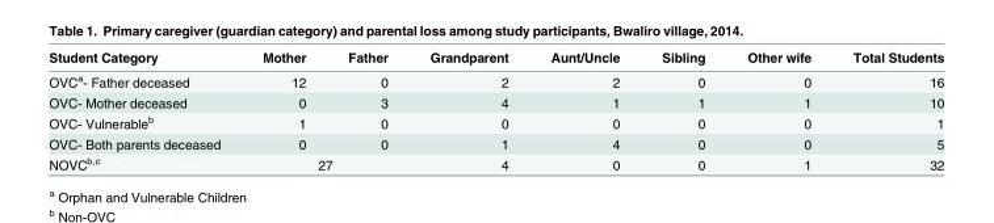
<table><thead><tr><td>Student Category</td><td>Mother</td><td>Father</td><td>Grandparent</td><td>Aunt/Uncle</td><td>Sibling</td><td>Other wife</td><td>Total Students</td></tr></thead><tbody><tr><td>OVC<sup>a</sup>- Father deceased</td><td>12</td><td>0</td><td>2</td><td>2</td><td>0</td><td>0</td><td>16</td></tr><tr><td>OVC- Mother deceased</td><td>0</td><td>3</td><td>4</td><td>1</td><td>1</td><td>1</td><td>10</td></tr><tr><td>OVC- Vulnerable<sup>b</sup></td><td>1</td><td>0</td><td>0</td><td>0</td><td>0</td><td>0</td><td>1</td></tr><tr><td>OVC- Both parents deceased</td><td>0</td><td>0</td><td>1</td><td>4</td><td>0</td><td>0</td><td>5</td></tr><tr><td>NOVC<sup>b,c</sup></td><td colspan="2">27</td><td>4</td><td>0</td><td>0</td><td>1</td><td>32</td></tr></tbody></table>